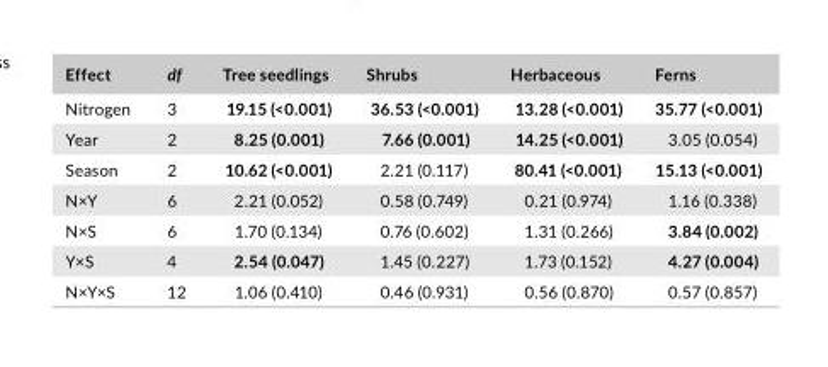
<table><thead><tr><td>Effect</td><td>df</td><td>Tree seedlings</td><td>Shrubs</td><td>Herbaceous</td><td>Ferns</td></tr></thead><tbody><tr><td>Nitrogen</td><td>3</td><td>19.15 (&lt;0.001)</td><td>36.53 (&lt;0.001)</td><td>13.28 (&lt;0.001)</td><td>35.77 (&lt;0.001)</td></tr><tr><td>Year</td><td>2</td><td>8.25 (0.001)</td><td>7.66 (0.001)</td><td>14.25 (&lt;0.001)</td><td>3.05 (0.054)</td></tr><tr><td>Season</td><td>2</td><td>10.62 (&lt;0.001)</td><td>2.21 (0.117)</td><td>80.41 (&lt;0.001)</td><td>15.13 (&lt;0.001)</td></tr><tr><td>N×Y</td><td>6</td><td>2.21 (0.052)</td><td>0.58 (0.749)</td><td>0.21 (0.974)</td><td>1.16 (0.338)</td></tr><tr><td>N×S</td><td>6</td><td>1.70 (0.134)</td><td>0.76 (0.602)</td><td>1.31 (0.266)</td><td>3.84 (0.002)</td></tr><tr><td>Y×S</td><td>4</td><td>2.54 (0.047)</td><td>1.45 (0.227)</td><td>1.73 (0.152)</td><td>4.27 (0.004)</td></tr><tr><td>N×Y×S</td><td>12</td><td>1.06 (0.410)</td><td>0.46 (0.931)</td><td>0.56 (0.870)</td><td>0.57 (0.857)</td></tr></tbody></table>